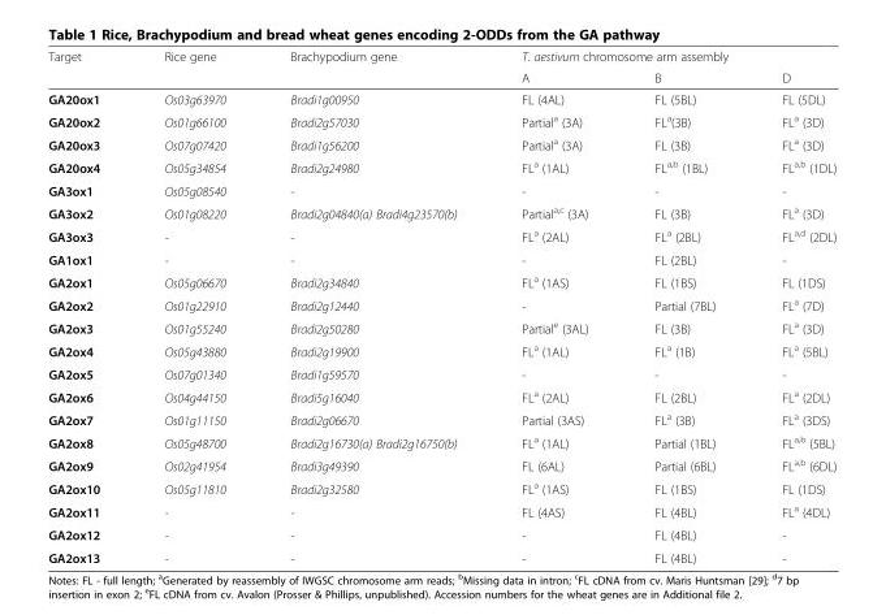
<table><thead><tr><td rowspan="2">Target</td><td rowspan="2">Rice gene</td><td rowspan="2">Brachypodium gene</td><td colspan="3">T. aestivum chromosome arm assembly</td></tr><tr><td>A</td><td>B</td><td>D</td></tr></thead><tbody><tr><td>GA20ox1</td><td>Os03g63970</td><td>Bradi1g00950</td><td>FL (4AL)</td><td>FL (5BL)</td><td>FL (5DL)</td></tr><tr><td>GA20ox2</td><td>Os01g66100</td><td>Bradi2g57030</td><td>Partial<sup>a</sup> (3A)</td><td>FL<sup>a</sup>(3B)</td><td>FL<sup>a</sup> (3D)</td></tr><tr><td>GA20ox3</td><td>Os07g07420</td><td>Bradi1g56200</td><td>Partial<sup>a</sup> (3A)</td><td>FL (3B)</td><td>FL<sup>a</sup> (3D)</td></tr><tr><td>GA20ox4</td><td>Os05g34854</td><td>Bradi2g24980</td><td>FL<sup>a</sup> (1AL)</td><td>FL<sup>a,b</sup> (1BL)</td><td>FL<sup>a,b</sup> (1DL)</td></tr><tr><td>GA3ox1</td><td>Os05g08540</td><td>-</td><td>-</td><td>-</td><td>-</td></tr><tr><td>GA3ox2</td><td>Os01g08220</td><td>Bradi2g04840(a) Bradi4g23570(b)</td><td>Partial<sup>a,c</sup> (3A)</td><td>FL (3B)</td><td>FL<sup>a</sup> (3D)</td></tr><tr><td>GA3ox3</td><td>-</td><td>-</td><td>FL<sup>a</sup> (2AL)</td><td>FL<sup>a</sup> (2BL)</td><td>FL<sup>a,d</sup> (2DL)</td></tr><tr><td>GA1ox1</td><td>-</td><td>-</td><td>-</td><td>FL (2BL)</td><td>-</td></tr><tr><td>GA2ox1</td><td>Os05g06670</td><td>Bradi2g34840</td><td>FL<sup>a</sup> (1AS)</td><td>FL (1BS)</td><td>FL (1DS)</td></tr><tr><td>GA2ox2</td><td>Os01g22910</td><td>Bradi2g12440</td><td>-</td><td>Partial (7BL)</td><td>FL<sup>a</sup> (7D)</td></tr><tr><td>GA2ox3</td><td>Os01g55240</td><td>Bradi2g50280</td><td>Partial<sup>e</sup> (3AL)</td><td>FL (3B)</td><td>FL<sup>a</sup> (3D)</td></tr><tr><td>GA2ox4</td><td>Os05g43880</td><td>Bradi2g19900</td><td>FL<sup>a</sup> (1AL)</td><td>FL<sup>a</sup> (1B)</td><td>FL<sup>a</sup> (5BL)</td></tr><tr><td>GA2ox5</td><td>Os07g01340</td><td>Bradi1g59570</td><td>-</td><td>-</td><td>-</td></tr><tr><td>GA2ox6</td><td>Os04g44150</td><td>Bradi5g16040</td><td>FL<sup>a</sup> (2AL)</td><td>FL (2BL)</td><td>FL<sup>a</sup> (2DL)</td></tr><tr><td>GA2ox7</td><td>Os01g11150</td><td>Bradi2g06670</td><td>Partial (3AS)</td><td>FL<sup>a</sup> (3B)</td><td>FL<sup>a</sup> (3DS)</td></tr><tr><td>GA2ox8</td><td>Os05g48700</td><td>Bradi2g16730(a) Bradi2g16750(b)</td><td>FL<sup>a</sup> (1AL)</td><td>Partial (1BL)</td><td>FL<sup>a,b</sup> (5BL)</td></tr><tr><td>GA2ox9</td><td>Os02g41954</td><td>Bradi3g49390</td><td>FL (6AL)</td><td>Partial (6BL)</td><td>FL<sup>a,b</sup> (6DL)</td></tr><tr><td>GA2ox10</td><td>Os05g11810</td><td>Bradi2g32580</td><td>FL<sup>a</sup> (1AS)</td><td>FL (1BS)</td><td>FL (1DS)</td></tr><tr><td>GA2ox11</td><td>-</td><td>-</td><td>FL (4AS)</td><td>FL (4BL)</td><td>FL<sup>a</sup> (4DL)</td></tr><tr><td>GA2ox12</td><td>-</td><td>-</td><td>-</td><td>FL (4BL)</td><td>-</td></tr><tr><td>GA2ox13</td><td>-</td><td>-</td><td>-</td><td>FL (4BL)</td><td>-</td></tr></tbody></table>